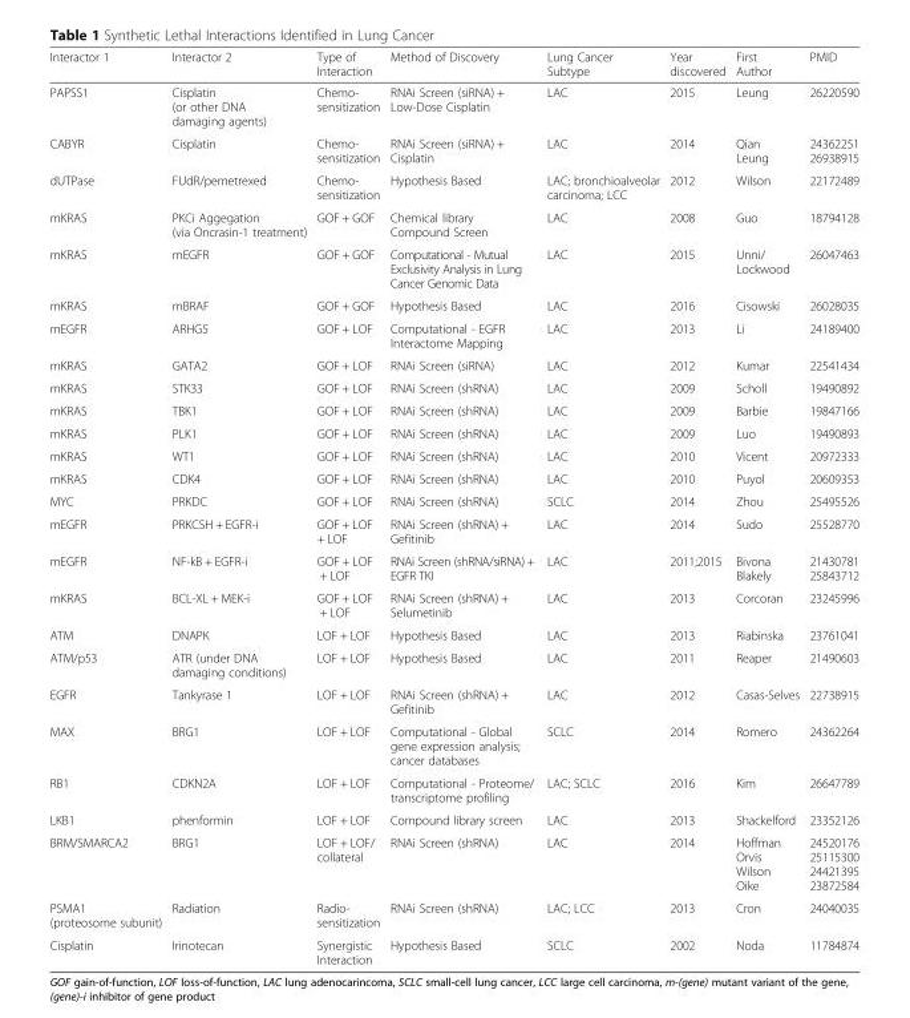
<table><thead><tr><td>Interactor 1</td><td>Interactor 2</td><td>Type of Interaction</td><td>Method of Discovery</td><td>Lung Cancer Subtype</td><td>Year discovered</td><td>First Author</td><td>PMID</td></tr></thead><tbody><tr><td>PAPSS1</td><td>Cisplatin (or other DNA damaging agents)</td><td>Chemo- sensitization</td><td>RNAi Screen (siRNA) + Low-Dose Cisplatin</td><td>LAC</td><td>2015</td><td>Leung</td><td>26220590</td></tr><tr><td>CABYR</td><td>Cisplatin</td><td>Chemo- sensitization</td><td>RNAi Screen (siRNA) + Cisplatin</td><td>LAC</td><td>2014</td><td>Qian Leung</td><td>24362251 26938915</td></tr><tr><td>dUTPase</td><td>FUdR/pemetrexed</td><td>Chemo- sensitization</td><td>Hypothesis Based</td><td>LAC; bronchioalveolar carcinoma; LCC</td><td>2012</td><td>Wilson</td><td>22172489</td></tr><tr><td>mKRAS</td><td>PKCi Aggegation (via Oncrasin-1 treatment)</td><td>GOF + GOF</td><td>Chemical library Compound Screen</td><td>LAC</td><td>2008</td><td>Guo</td><td>18794128</td></tr><tr><td>mKRAS</td><td>mEGFR</td><td>GOF + GOF</td><td>Computational - Mutual Exclusivity Analysis in Lung Cancer Genomic Data</td><td>LAC</td><td>2015</td><td>Unni/ Lockwood</td><td>26047463</td></tr><tr><td>mKRAS</td><td>mBRAF</td><td>GOF + GOF</td><td>Hypothesis Based</td><td>LAC</td><td>2016</td><td>Cisowski</td><td>26028035</td></tr><tr><td>mEGFR</td><td>ARHG5</td><td>GOF + LOF</td><td>Computational - EGFR Interactome Mapping</td><td>LAC</td><td>2013</td><td>Li</td><td>24189400</td></tr><tr><td>mKRAS</td><td>GATA2</td><td>GOF + LOF</td><td>RNAi Screen (siRNA)</td><td>LAC</td><td>2012</td><td>Kumar</td><td>22541434</td></tr><tr><td>mKRAS</td><td>STK33</td><td>GOF + LOF</td><td>RNAi Screen (shRNA)</td><td>LAC</td><td>2009</td><td>Scholl</td><td>19490892</td></tr><tr><td>mKRAS</td><td>TBK1</td><td>GOF + LOF</td><td>RNAi Screen (shRNA)</td><td>LAC</td><td>2009</td><td>Barbie</td><td>19847166</td></tr><tr><td>mKRAS</td><td>PLK1</td><td>GOF + LOF</td><td>RNAi Screen (shRNA)</td><td>LAC</td><td>2009</td><td>Luo</td><td>19490893</td></tr><tr><td>mKRAS</td><td>WT1</td><td>GOF + LOF</td><td>RNAi Screen (shRNA)</td><td>LAC</td><td>2010</td><td>Vicent</td><td>20972333</td></tr><tr><td>mKRAS</td><td>CDK4</td><td>GOF + LOF</td><td>RNAi Screen (shRNA)</td><td>LAC</td><td>2010</td><td>Puyol</td><td>20609353</td></tr><tr><td>MYC</td><td>PRKDC</td><td>GOF + LOF</td><td>RNAi Screen (shRNA)</td><td>SCLC</td><td>2014</td><td>Zhou</td><td>25495526</td></tr><tr><td>mEGFR</td><td>PRKCSH + EGFR-i</td><td>GOF + LOF + LOF</td><td>RNAi Screen (shRNA) + Gefitinib</td><td>LAC</td><td>2014</td><td>Sudo</td><td>25528770</td></tr><tr><td>mEGFR</td><td>NF-kB + EGFR-i</td><td>GOF + LOF + LOF</td><td>RNAi Screen (shRNA/siRNA) + EGFR TKI</td><td>LAC</td><td>2011;2015</td><td>Bivona Blakely</td><td>21430781 25843712</td></tr><tr><td>mKRAS</td><td>BCL-XL + MEK-i</td><td>GOF + LOF + LOF</td><td>RNAi Screen (shRNA) + Selumetinib</td><td>LAC</td><td>2013</td><td>Corcoran</td><td>23245996</td></tr><tr><td>ATM</td><td>DNAPK</td><td>LOF + LOF</td><td>Hypothesis Based</td><td>LAC</td><td>2013</td><td>Riabinska</td><td>23761041</td></tr><tr><td>ATM/p53</td><td>ATR (under DNA damaging conditions)</td><td>LOF + LOF</td><td>Hypothesis Based</td><td>LAC</td><td>2011</td><td>Reaper</td><td>21490603</td></tr><tr><td>EGFR</td><td>Tankyrase 1</td><td>LOF + LOF</td><td>RNAi Screen (shRNA) + Gefitinib</td><td>LAC</td><td>2012</td><td>Casas-Selves</td><td>22738915</td></tr><tr><td>MAX</td><td>BRG1</td><td>LOF + LOF</td><td>Computational - Global gene expression analysis; cancer databases</td><td>SCLC</td><td>2014</td><td>Romero</td><td>24362264</td></tr><tr><td>RB1</td><td>CDKN2A</td><td>LOF + LOF</td><td>Computational - Proteome/ transcriptome profiling</td><td>LAC; SCLC</td><td>2016</td><td>Kim</td><td>26647789</td></tr><tr><td>LKB1</td><td>phenformin</td><td>LOF + LOF</td><td>Compound library screen</td><td>LAC</td><td>2013</td><td>Shackelford</td><td>23352126</td></tr><tr><td>BRM/SMARCA2</td><td>BRG1</td><td>LOF + LOF/ collateral</td><td>RNAi Screen (shRNA)</td><td>LAC</td><td>2014</td><td>Hoffman Orvis Wilson Oike</td><td>24520176 25115300 24421395 23872584</td></tr><tr><td>PSMA1 (proteosome subunit)</td><td>Radiation</td><td>Radio- sensitization</td><td>RNAi Screen (shRNA)</td><td>LAC; LCC</td><td>2013</td><td>Cron</td><td>24040035</td></tr><tr><td>Cisplatin</td><td>Irinotecan</td><td>Synergistic Interaction</td><td>Hypothesis Based</td><td>SCLC</td><td>2002</td><td>Noda</td><td>11784874</td></tr></tbody></table>